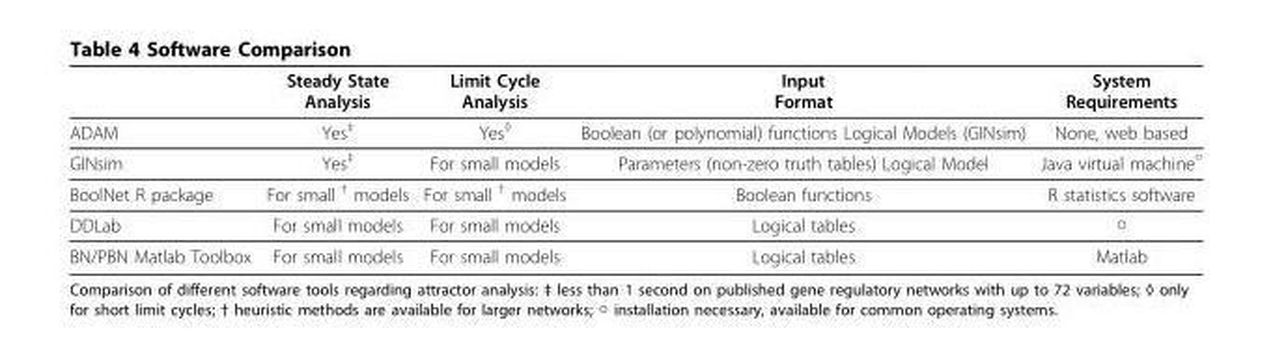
<table><thead><tr><td></td><td>Steady State Analysis</td><td>Limit Cycle Analysis</td><td>Input Format</td><td>System Requirements</td></tr></thead><tbody><tr><td>ADAM</td><td>Yes<sup>‡</sup></td><td>Yes<sup>◊</sup></td><td>Boolean (or polynomial) functions Logical Models (GINsim)</td><td>None, web based</td></tr><tr><td>GINsim</td><td>Yes<sup>‡</sup></td><td>For small models</td><td>Parameters (non-zero truth tables) Logical Model</td><td>Java virtual machine<sup>○</sup></td></tr><tr><td>BoolNet R package</td><td>For small <sup>†</sup> models</td><td>For small <sup>†</sup> models</td><td>Boolean functions</td><td>R statistics software</td></tr><tr><td>DDLab</td><td>For small models</td><td>For small models</td><td>Logical tables</td><td>○</td></tr><tr><td>BN/PBN Matlab Toolbox</td><td>For small models</td><td>For small models</td><td>Logical tables</td><td>Matlab</td></tr></tbody></table>